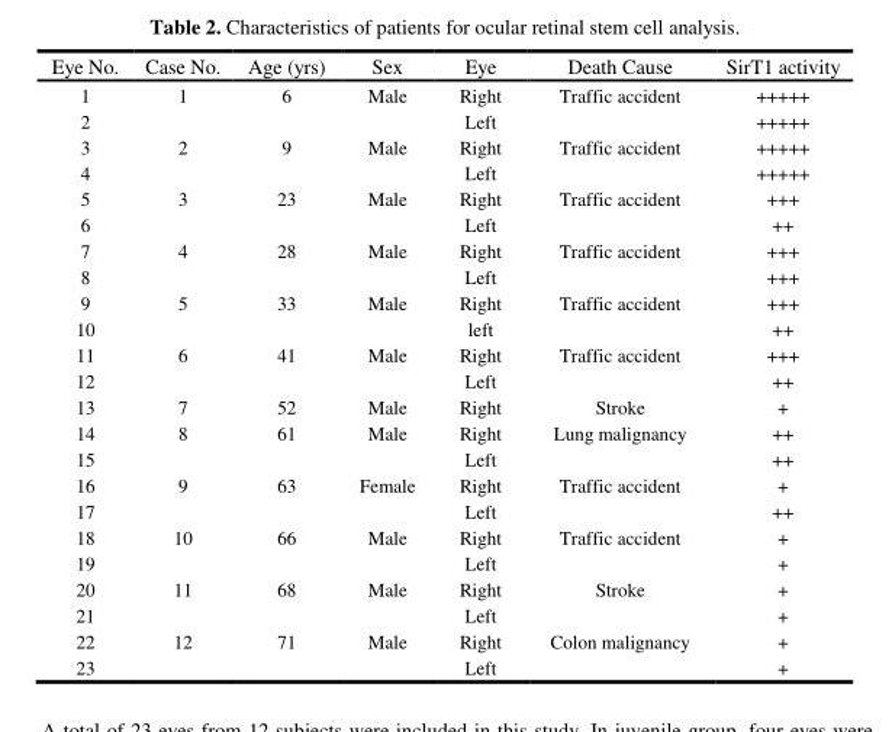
<table><thead><tr><td>Eye No.</td><td>Case No.</td><td>Age (yrs)</td><td>Sex</td><td>Eye</td><td>Death Cause</td><td>SirT1 activity</td></tr></thead><tbody><tr><td>1</td><td>1</td><td>6</td><td>Male</td><td>Right</td><td>Traffic accident</td><td>+++++</td></tr><tr><td>2</td><td></td><td></td><td></td><td>Left</td><td></td><td>+++++</td></tr><tr><td>3</td><td>2</td><td>9</td><td>Male</td><td>Right</td><td>Traffic accident</td><td>+++++</td></tr><tr><td>4</td><td></td><td></td><td></td><td>Left</td><td></td><td>+++++</td></tr><tr><td>5</td><td>3</td><td>23</td><td>Male</td><td>Right</td><td>Traffic accident</td><td>+++</td></tr><tr><td>6</td><td></td><td></td><td></td><td>Left</td><td></td><td>++</td></tr><tr><td>7</td><td>4</td><td>28</td><td>Male</td><td>Right</td><td>Traffic accident</td><td>+++</td></tr><tr><td>8</td><td></td><td></td><td></td><td>Left</td><td></td><td>+++</td></tr><tr><td>9</td><td>5</td><td>33</td><td>Male</td><td>Right</td><td>Traffic accident</td><td>+++</td></tr><tr><td>10</td><td></td><td></td><td></td><td>left</td><td></td><td>++</td></tr><tr><td>11</td><td>6</td><td>41</td><td>Male</td><td>Right</td><td>Traffic accident</td><td>+++</td></tr><tr><td>12</td><td></td><td></td><td></td><td>Left</td><td></td><td>++</td></tr><tr><td>13</td><td>7</td><td>52</td><td>Male</td><td>Right</td><td>Stroke</td><td>+</td></tr><tr><td>14</td><td>8</td><td>61</td><td>Male</td><td>Right</td><td>Lung malignancy</td><td>++</td></tr><tr><td>15</td><td></td><td></td><td></td><td>Left</td><td></td><td>++</td></tr><tr><td>16</td><td>9</td><td>63</td><td>Female</td><td>Right</td><td>Traffic accident</td><td>+</td></tr><tr><td>17</td><td></td><td></td><td></td><td>Left</td><td></td><td>++</td></tr><tr><td>18</td><td>10</td><td>66</td><td>Male</td><td>Right</td><td>Traffic accident</td><td>+</td></tr><tr><td>19</td><td></td><td></td><td></td><td>Left</td><td></td><td>+</td></tr><tr><td>20</td><td>11</td><td>68</td><td>Male</td><td>Right</td><td>Stroke</td><td>+</td></tr><tr><td>21</td><td></td><td></td><td></td><td>Left</td><td></td><td>+</td></tr><tr><td>22</td><td>12</td><td>71</td><td>Male</td><td>Right</td><td>Colon malignancy</td><td>+</td></tr><tr><td>23</td><td></td><td></td><td></td><td>Left</td><td></td><td>+</td></tr></tbody></table>